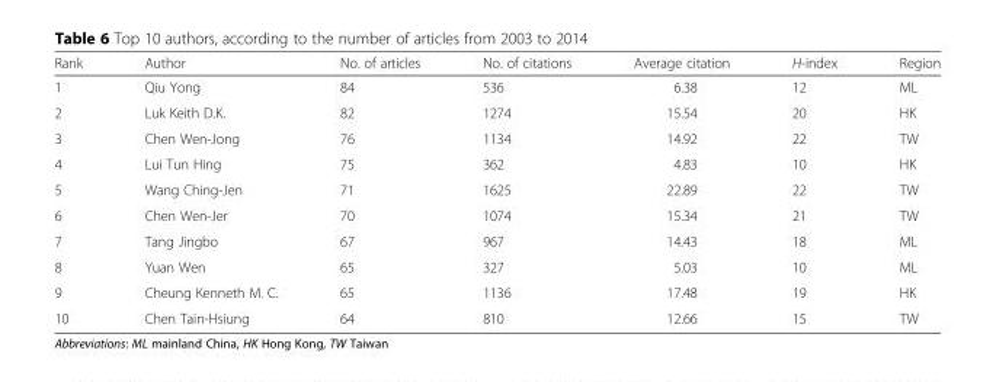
<table><thead><tr><td>Rank</td><td>Author</td><td>No. of articles</td><td>No. of citations</td><td>Average citation</td><td>H-index</td><td>Region</td></tr></thead><tbody><tr><td>1</td><td>Qiu Yong</td><td>84</td><td>536</td><td>6.38</td><td>12</td><td>ML</td></tr><tr><td>2</td><td>Luk Keith D.K.</td><td>82</td><td>1274</td><td>15.54</td><td>20</td><td>HK</td></tr><tr><td>3</td><td>Chen Wen-Jong</td><td>76</td><td>1134</td><td>14.92</td><td>22</td><td>TW</td></tr><tr><td>4</td><td>Lui Tun Hing</td><td>75</td><td>362</td><td>4.83</td><td>10</td><td>HK</td></tr><tr><td>5</td><td>Wang Ching-Jen</td><td>71</td><td>1625</td><td>22.89</td><td>22</td><td>TW</td></tr><tr><td>6</td><td>Chen Wen-Jer</td><td>70</td><td>1074</td><td>15.34</td><td>21</td><td>TW</td></tr><tr><td>7</td><td>Tang Jingbo</td><td>67</td><td>967</td><td>14.43</td><td>18</td><td>ML</td></tr><tr><td>8</td><td>Yuan Wen</td><td>65</td><td>327</td><td>5.03</td><td>10</td><td>ML</td></tr><tr><td>9</td><td>Cheung Kenneth M. C.</td><td>65</td><td>1136</td><td>17.48</td><td>19</td><td>HK</td></tr><tr><td>10</td><td>Chen Tain-Hsiung</td><td>64</td><td>810</td><td>12.66</td><td>15</td><td>TW</td></tr></tbody></table>